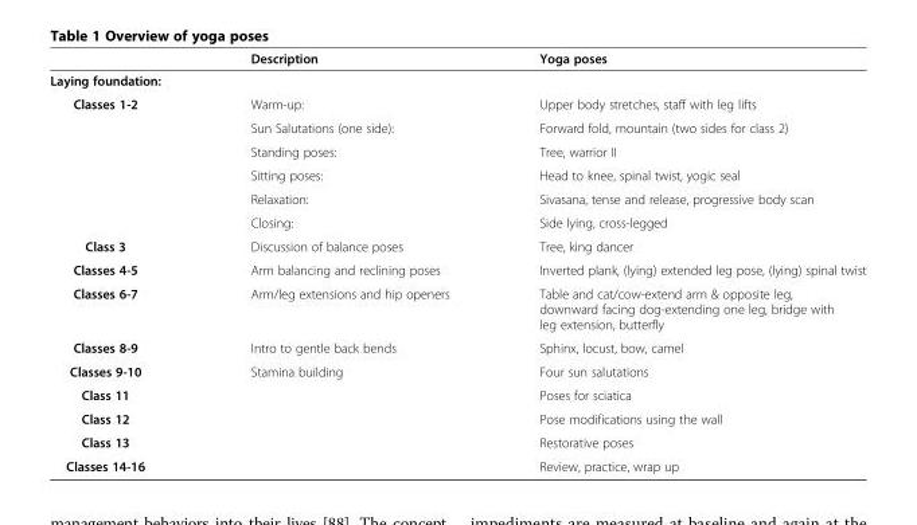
<table><thead><tr><td></td><td>Description</td><td>Yoga poses</td></tr></thead><tbody><tr><td colspan="3">Laying foundation:</td></tr><tr><td rowspan="6">Classes 1-2</td><td>Warm-up:</td><td>Upper body stretches, staff with leg lifts</td></tr><tr><td>Sun Salutations (one side):</td><td>Forward fold, mountain (two sides for class 2)</td></tr><tr><td>Standing poses:</td><td>Tree, warrior II</td></tr><tr><td>Sitting poses:</td><td>Head to knee, spinal twist, yogic seal</td></tr><tr><td>Relaxation:</td><td>Sivasana, tense and release, progressive body scan</td></tr><tr><td>Closing:</td><td>Side lying, cross-legged</td></tr><tr><td>Class 3</td><td>Discussion of balance poses</td><td>Tree, king dancer</td></tr><tr><td>Classes 4-5</td><td>Arm balancing and reclining poses</td><td>Inverted plank, (lying) extended leg pose, (lying) spinal twist</td></tr><tr><td>Classes 6-7</td><td>Arm/leg extensions and hip openers</td><td>Table and cat/cow-extend arm &amp; opposite leg, downward facing dog-extending one leg, bridge with leg extension, butterfly</td></tr><tr><td>Classes 8-9</td><td>Intro to gentle back bends</td><td>Sphinx, locust, bow, camel</td></tr><tr><td>Classes 9-10</td><td>Stamina building</td><td>Four sun salutations</td></tr><tr><td>Class 11</td><td></td><td>Poses for sciatica</td></tr><tr><td>Class 12</td><td></td><td>Pose modifications using the wall</td></tr><tr><td>Class 13</td><td></td><td>Restorative poses</td></tr><tr><td>Classes 14-16</td><td></td><td>Review, practice, wrap up</td></tr></tbody></table>